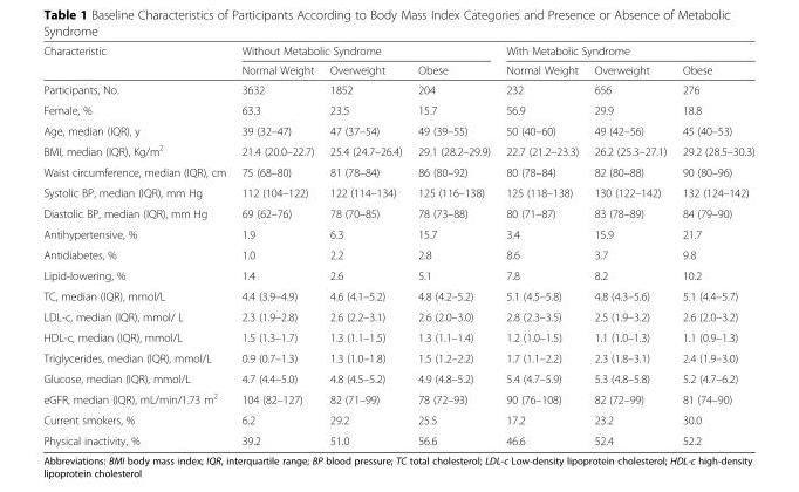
<table><thead><tr><td rowspan="2">Characteristic</td><td colspan="3">Without Metabolic Syndrome</td><td colspan="3">With Metabolic Syndrome</td></tr><tr><td>Normal Weight</td><td>Overweight</td><td>Obese</td><td>Normal Weight</td><td>Overweight</td><td>Obese</td></tr></thead><tbody><tr><td>Participants, No.</td><td>3632</td><td>1852</td><td>204</td><td>232</td><td>656</td><td>276</td></tr><tr><td>Female, %</td><td>63.3</td><td>23.5</td><td>15.7</td><td>56.9</td><td>29.9</td><td>18.8</td></tr><tr><td>Age, median (IQR), y</td><td>39 (32–47)</td><td>47 (37–54)</td><td>49 (39–55)</td><td>50 (40–60)</td><td>49 (42–56)</td><td>45 (40–53)</td></tr><tr><td>BMI, median (IQR), Kg/m<sup>2</sup></td><td>21.4 (20.0–22.7)</td><td>25.4 (24.7–26.4)</td><td>29.1 (28.2–29.9)</td><td>22.7 (21.2–23.3)</td><td>26.2 (25.3–27.1)</td><td>29.2 (28.5–30.3)</td></tr><tr><td>Waist circumference, median (IQR), cm</td><td>75 (68–80)</td><td>81 (78–84)</td><td>86 (80–92)</td><td>80 (78–84)</td><td>82 (80–88)</td><td>90 (80–96)</td></tr><tr><td>Systolic BP, median (IQR), mm Hg</td><td>112 (104–122)</td><td>122 (114–134)</td><td>125 (116–138)</td><td>125 (118–138)</td><td>130 (122–142)</td><td>132 (124–142)</td></tr><tr><td>Diastolic BP, median (IQR), mm Hg</td><td>69 (62–76)</td><td>78 (70–85)</td><td>78 (73–88)</td><td>80 (71–87)</td><td>83 (78–89)</td><td>84 (79–90)</td></tr><tr><td>Antihypertensive, %</td><td>1.9</td><td>6.3</td><td>15.7</td><td>3.4</td><td>15.9</td><td>21.7</td></tr><tr><td>Antidiabetes, %</td><td>1.0</td><td>2.2</td><td>2.8</td><td>8.6</td><td>3.7</td><td>9.8</td></tr><tr><td>Lipid-lowering, %</td><td>1.4</td><td>2.6</td><td>5.1</td><td>7.8</td><td>8.2</td><td>10.2</td></tr><tr><td>TC, median (IQR), mmol/L</td><td>4.4 (3.9–4.9)</td><td>4.6 (4.1–5.2)</td><td>4.8 (4.2–5.2)</td><td>5.1 (4.5–5.8)</td><td>4.8 (4.3–5.6)</td><td>5.1 (4.4–5.7)</td></tr><tr><td>LDL-c, median (IQR), mmol/ L</td><td>2.3 (1.9–2.8)</td><td>2.6 (2.2–3.1)</td><td>2.6 (2.0–3.0)</td><td>2.8 (2.3–3.5)</td><td>2.5 (1.9–3.2)</td><td>2.6 (2.0–3.2)</td></tr><tr><td>HDL-c, median (IQR), mmol/L</td><td>1.5 (1.3–1.7)</td><td>1.3 (1.1–1.5)</td><td>1.3 (1.1–1.4)</td><td>1.2 (1.0–1.5)</td><td>1.1 (1.0–1.3)</td><td>1.1 (0.9–1.3)</td></tr><tr><td>Triglycerides, median (IQR), mmol/L</td><td>0.9 (0.7–1.3)</td><td>1.3 (1.0–1.8)</td><td>1.5 (1.2–2.2)</td><td>1.7 (1.1–2.2)</td><td>2.3 (1.8–3.1)</td><td>2.4 (1.9–3.0)</td></tr><tr><td>Glucose, median (IQR), mmol/L</td><td>4.7 (4.4–5.0)</td><td>4.8 (4.5–5.2)</td><td>4.9 (4.8–5.2)</td><td>5.4 (4.7–5.9)</td><td>5.3 (4.8–5.8)</td><td>5.2 (4.7–6.2)</td></tr><tr><td>eGFR, median (IQR), mL/min/1.73 m<sup>2</sup></td><td>104 (82–127)</td><td>82 (71–99)</td><td>78 (72–93)</td><td>90 (76–108)</td><td>82 (72–99)</td><td>81 (74–90)</td></tr><tr><td>Current smokers, %</td><td>6.2</td><td>29.2</td><td>25.5</td><td>17.2</td><td>23.2</td><td>30.0</td></tr><tr><td>Physical inactivity, %</td><td>39.2</td><td>51.0</td><td>56.6</td><td>46.6</td><td>52.4</td><td>52.2</td></tr></tbody></table>